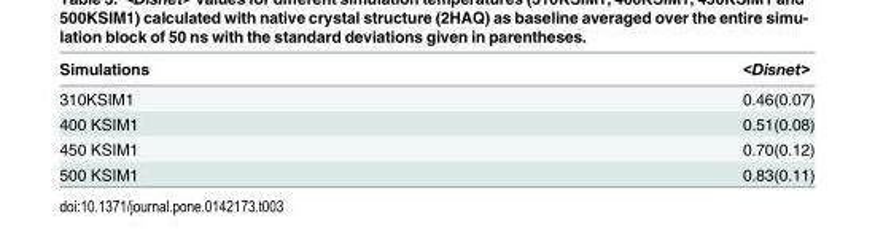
<table><thead><tr><td>Simulations</td><td>&lt;Disnet&gt;</td></tr></thead><tbody><tr><td>310KSIM1</td><td>0.46(0.07)</td></tr><tr><td>400 KSIM1</td><td>0.51(0.08)</td></tr><tr><td>450 KSIM1</td><td>0.70(0.12)</td></tr><tr><td>500 KSIM1</td><td>0.83(0.11)</td></tr></tbody></table>